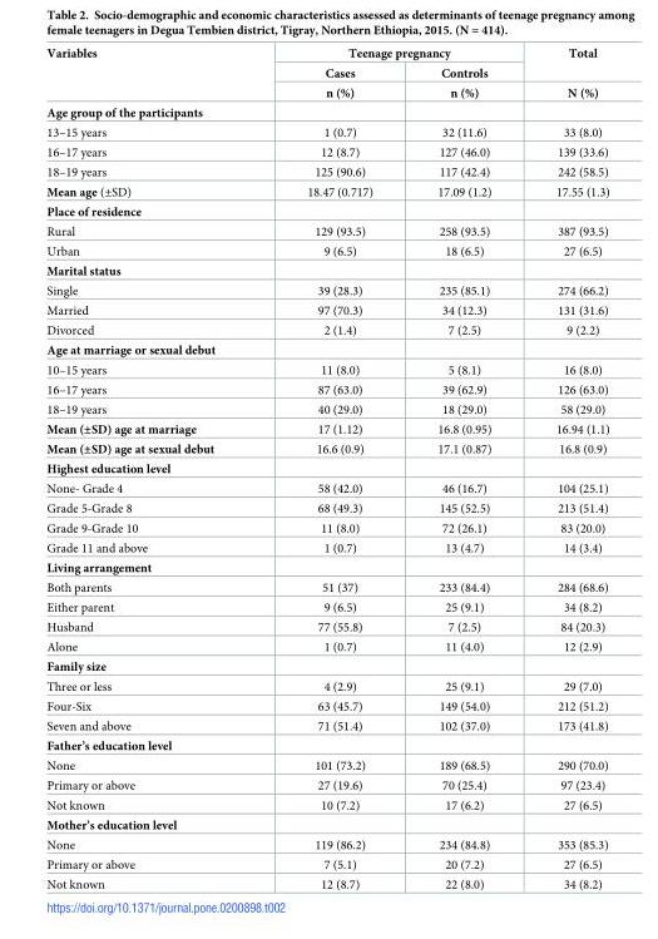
<table><thead><tr><td rowspan="3">Variables</td><td colspan="2">Teenage pregnancy</td><td rowspan="3">Total N (%)</td></tr><tr><td rowspan="2">Cases n (%)</td><td rowspan="2">Controls n (%)</td></tr><tr></tr></thead><tbody><tr><td colspan="4">Age group of the participants</td></tr><tr><td>13–15 years</td><td>1 (0.7)</td><td>32 (11.6)</td><td>33 (8.0)</td></tr><tr><td>16–17 years</td><td>12 (8.7)</td><td>127 (46.0)</td><td>139 (33.6)</td></tr><tr><td>18–19 years</td><td>125 (90.6)</td><td>117 (42.4)</td><td>242 (58.5)</td></tr><tr><td>Mean age (±SD)</td><td>18.47 (0.717)</td><td>17.09 (1.2)</td><td>17.55 (1.3)</td></tr><tr><td colspan="4">Place of residence</td></tr><tr><td>Rural</td><td>129 (93.5)</td><td>258 (93.5)</td><td>387 (93.5)</td></tr><tr><td>Urban</td><td>9 (6.5)</td><td>18 (6.5)</td><td>27 (6.5)</td></tr><tr><td colspan="4">Marital status</td></tr><tr><td>Single</td><td>39 (28.3)</td><td>235 (85.1)</td><td>274 (66.2)</td></tr><tr><td>Married</td><td>97 (70.3)</td><td>34 (12.3)</td><td>131 (31.6)</td></tr><tr><td>Divorced</td><td>2 (1.4)</td><td>7 (2.5)</td><td>9 (2.2)</td></tr><tr><td colspan="4">Age at marriage or sexual debut</td></tr><tr><td>10–15 years</td><td>11 (8.0)</td><td>5 (8.1)</td><td>16 (8.0)</td></tr><tr><td>16–17 years</td><td>87 (63.0)</td><td>39 (62.9)</td><td>126 (63.0)</td></tr><tr><td>18–19 years</td><td>40 (29.0)</td><td>18 (29.0)</td><td>58 (29.0)</td></tr><tr><td>Mean (±SD) age at marriage</td><td>17 (1.12)</td><td>16.8 (0.95)</td><td>16.94 (1.1)</td></tr><tr><td>Mean (±SD) age at sexual debut</td><td>16.6 (0.9)</td><td>17.1 (0.87)</td><td>16.8 (0.9)</td></tr><tr><td colspan="4">Highest education level</td></tr><tr><td>None- Grade 4</td><td>58 (42.0)</td><td>46 (16.7)</td><td>104 (25.1)</td></tr><tr><td>Grade 5-Grade 8</td><td>68 (49.3)</td><td>145 (52.5)</td><td>213 (51.4)</td></tr><tr><td>Grade 9-Grade 10</td><td>11 (8.0)</td><td>72 (26.1)</td><td>83 (20.0)</td></tr><tr><td>Grade 11 and above</td><td>1 (0.7)</td><td>13 (4.7)</td><td>14 (3.4)</td></tr><tr><td colspan="4">Living arrangement</td></tr><tr><td>Both parents</td><td>51 (37)</td><td>233 (84.4)</td><td>284 (68.6)</td></tr><tr><td>Either parent</td><td>9 (6.5)</td><td>25 (9.1)</td><td>34 (8.2)</td></tr><tr><td>Husband</td><td>77 (55.8)</td><td>7 (2.5)</td><td>84 (20.3)</td></tr><tr><td>Alone</td><td>1 (0.7)</td><td>11 (4.0)</td><td>12 (2.9)</td></tr><tr><td colspan="4">Family size</td></tr><tr><td>Three or less</td><td>4 (2.9)</td><td>25 (9.1)</td><td>29 (7.0)</td></tr><tr><td>Four-Six</td><td>63 (45.7)</td><td>149 (54.0)</td><td>212 (51.2)</td></tr><tr><td>Seven and above</td><td>71 (51.4)</td><td>102 (37.0)</td><td>173 (41.8)</td></tr><tr><td colspan="4">Father’s education level</td></tr><tr><td>None</td><td>101 (73.2)</td><td>189 (68.5)</td><td>290 (70.0)</td></tr><tr><td>Primary or above</td><td>27 (19.6)</td><td>70 (25.4)</td><td>97 (23.4)</td></tr><tr><td>Not known</td><td>10 (7.2)</td><td>17 (6.2)</td><td>27 (6.5)</td></tr><tr><td colspan="4">Mother’s education level</td></tr><tr><td>None</td><td>119 (86.2)</td><td>234 (84.8)</td><td>353 (85.3)</td></tr><tr><td>Primary or above</td><td>7 (5.1)</td><td>20 (7.2)</td><td>27 (6.5)</td></tr><tr><td>Not known</td><td>12 (8.7)</td><td>22 (8.0)</td><td>34 (8.2)</td></tr></tbody></table>